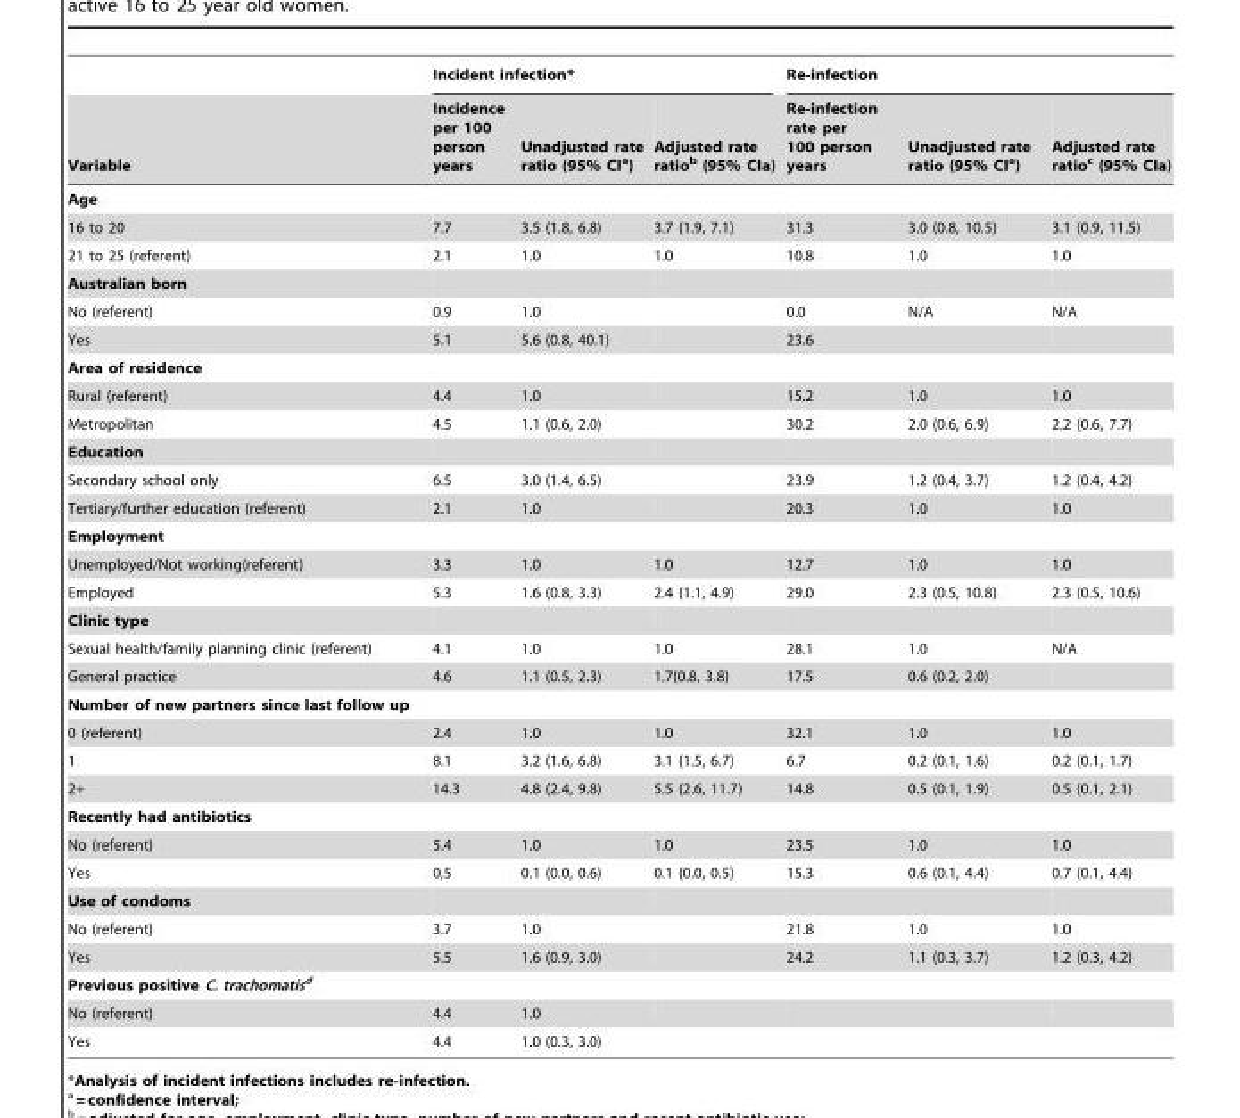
<table><thead><tr><td rowspan="2">Variable</td><td colspan="3">Incident infection*</td><td colspan="3">Re-infection</td></tr><tr><td>Incidence per 100 person years</td><td>Unadjusted rate ratio (95% CI<sup>a</sup>)</td><td>Adjusted rate ratio<sup>b</sup> (95% CIa)</td><td>Re-infection rate per 100 person years</td><td>Unadjusted rate ratio (95% CI<sup>a</sup>)</td><td>Adjusted rate ratio<sup>c</sup> (95% CIa)</td></tr></thead><tbody><tr><td colspan="7">Age</td></tr><tr><td>16 to 20</td><td>7.7</td><td>3.5 (1.8, 6.8)</td><td>3.7 (1.9, 7.1)</td><td>31.3</td><td>3.0 (0.8, 10.5)</td><td>3.1 (0.9, 11.5)</td></tr><tr><td>21 to 25 (referent)</td><td>2.1</td><td>1.0</td><td>1.0</td><td>10.8</td><td>1.0</td><td>1.0</td></tr><tr><td colspan="7">Australian born</td></tr><tr><td>No (referent)</td><td>0.9</td><td>1.0</td><td></td><td>0.0</td><td>N/A</td><td>N/A</td></tr><tr><td>Yes</td><td>5.1</td><td>5.6 (0.8, 40.1)</td><td></td><td>23.6</td><td></td><td></td></tr><tr><td colspan="7">Area of residence</td></tr><tr><td>Rural (referent)</td><td>4.4</td><td>1.0</td><td></td><td>15.2</td><td>1.0</td><td>1.0</td></tr><tr><td>Metropolitan</td><td>4.5</td><td>1.1 (0.6, 2.0)</td><td></td><td>30.2</td><td>2.0 (0.6, 6.9)</td><td>2.2 (0.6, 7.7)</td></tr><tr><td colspan="7">Education</td></tr><tr><td>Secondary school only</td><td>6.5</td><td>3.0 (1.4, 6.5)</td><td></td><td>23.9</td><td>1.2 (0.4, 3.7)</td><td>1.2 (0.4, 4.2)</td></tr><tr><td>Tertiary/further education (referent)</td><td>2.1</td><td>1.0</td><td></td><td>20.3</td><td>1.0</td><td>1.0</td></tr><tr><td colspan="7">Employment</td></tr><tr><td>Unemployed/Not working(referent)</td><td>3.3</td><td>1.0</td><td>1.0</td><td>12.7</td><td>1.0</td><td>1.0</td></tr><tr><td>Employed</td><td>5.3</td><td>1.6 (0.8, 3.3)</td><td>2.4 (1.1, 4.9)</td><td>29.0</td><td>2.3 (0.5, 10.8)</td><td>2.3 (0.5, 10.6)</td></tr><tr><td colspan="7">Clinic type</td></tr><tr><td>Sexual health/family planning clinic (referent)</td><td>4.1</td><td>1.0</td><td>1.0</td><td>28.1</td><td>1.0</td><td>N/A</td></tr><tr><td>General practice</td><td>4.6</td><td>1.1 (0.5, 2.3)</td><td>1.7(0.8, 3.8)</td><td>17.5</td><td>0.6 (0.2, 2.0)</td><td></td></tr><tr><td colspan="7">Number of new partners since last follow up</td></tr><tr><td>0 (referent)</td><td>2.4</td><td>1.0</td><td>1.0</td><td>32.1</td><td>1.0</td><td>1.0</td></tr><tr><td>1</td><td>8.1</td><td>3.2 (1.6, 6.8)</td><td>3.1 (1.5, 6.7)</td><td>6.7</td><td>0.2 (0.1, 1.6)</td><td>0.2 (0.1, 1.7)</td></tr><tr><td>2+</td><td>14.3</td><td>4.8 (2.4, 9.8)</td><td>5.5 (2.6, 11.7)</td><td>14.8</td><td>0.5 (0.1, 1.9)</td><td>0.5 (0.1, 2.1)</td></tr><tr><td colspan="7">Recently had antibiotics</td></tr><tr><td>No (referent)</td><td>5.4</td><td>1.0</td><td>1.0</td><td>23.5</td><td>1.0</td><td>1.0</td></tr><tr><td>Yes</td><td>0,5</td><td>0.1 (0.0, 0.6)</td><td>0.1 (0.0, 0.5)</td><td>15.3</td><td>0.6 (0.1, 4.4)</td><td>0.7 (0.1, 4.4)</td></tr><tr><td colspan="7">Use of condoms</td></tr><tr><td>No (referent)</td><td>3.7</td><td>1.0</td><td></td><td>21.8</td><td>1.0</td><td>1.0</td></tr><tr><td>Yes</td><td>5.5</td><td>1.6 (0.9, 3.0)</td><td></td><td>24.2</td><td>1.1 (0.3, 3.7)</td><td>1.2 (0.3, 4.2)</td></tr><tr><td colspan="7">Previous positive C. trachomatisd</td></tr><tr><td>No (referent)</td><td>4.4</td><td>1.0</td><td></td><td></td><td></td><td></td></tr><tr><td>Yes</td><td>4.4</td><td>1.0 (0.3, 3.0)</td><td></td><td></td><td></td><td></td></tr></tbody></table>